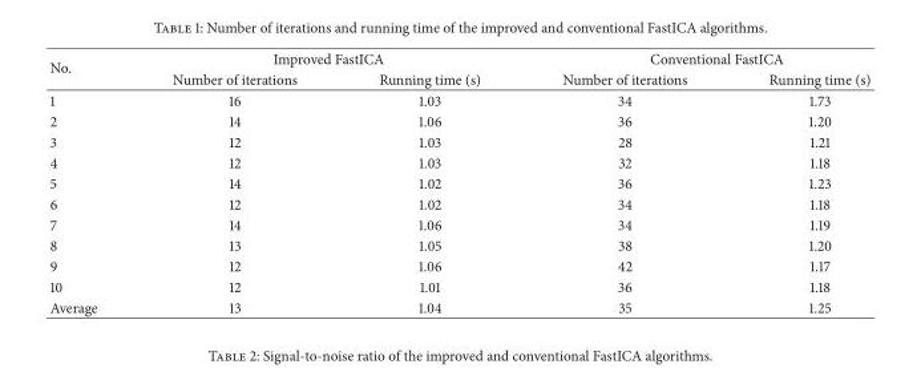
<table><thead><tr><td rowspan="2">No.</td><td colspan="2">Improved FastICA</td><td colspan="2">Conventional FastICA</td></tr><tr><td>Number of iterations</td><td>Running time (s)</td><td>Number of iterations</td><td>Running time (s)</td></tr></thead><tbody><tr><td>1</td><td>16</td><td>1.03</td><td>34</td><td>1.73</td></tr><tr><td>2</td><td>14</td><td>1.06</td><td>36</td><td>1.20</td></tr><tr><td>3</td><td>12</td><td>1.03</td><td>28</td><td>1.21</td></tr><tr><td>4</td><td>12</td><td>1.03</td><td>32</td><td>1.18</td></tr><tr><td>5</td><td>14</td><td>1.02</td><td>36</td><td>1.23</td></tr><tr><td>6</td><td>12</td><td>1.02</td><td>34</td><td>1.18</td></tr><tr><td>7</td><td>14</td><td>1.06</td><td>34</td><td>1.19</td></tr><tr><td>8</td><td>13</td><td>1.05</td><td>38</td><td>1.20</td></tr><tr><td>9</td><td>12</td><td>1.06</td><td>42</td><td>1.17</td></tr><tr><td>10</td><td>12</td><td>1.01</td><td>36</td><td>1.18</td></tr><tr><td>Average</td><td>13</td><td>1.04</td><td>35</td><td>1.25</td></tr></tbody></table>